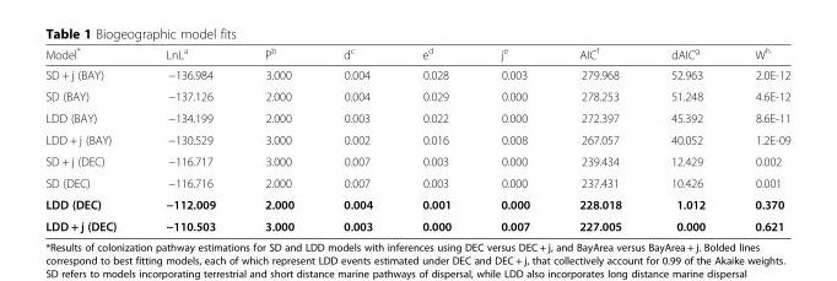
<table><thead><tr><td>Model*</td><td>LnL<sup>a</sup></td><td>P<sup>b</sup></td><td>d<sup>c</sup></td><td>e<sup>d</sup></td><td>j<sup>e</sup></td><td>AIC<sup>f</sup></td><td>dAIC<sup>g</sup></td><td>W<sup>h</sup></td></tr></thead><tbody><tr><td>SD + j (BAY)</td><td>−136.984</td><td>3.000</td><td>0.004</td><td>0.028</td><td>0.003</td><td>279.968</td><td>52.963</td><td>2.0E-12</td></tr><tr><td>SD (BAY)</td><td>−137.126</td><td>2.000</td><td>0.004</td><td>0.029</td><td>0.000</td><td>278.253</td><td>51.248</td><td>4.6E-12</td></tr><tr><td>LDD (BAY)</td><td>−134.199</td><td>2.000</td><td>0.003</td><td>0.022</td><td>0.000</td><td>272.397</td><td>45.392</td><td>8.6E-11</td></tr><tr><td>LDD + j (BAY)</td><td>−130.529</td><td>3.000</td><td>0.002</td><td>0.016</td><td>0.008</td><td>267.057</td><td>40.052</td><td>1.2E-09</td></tr><tr><td>SD + j (DEC)</td><td>−116.717</td><td>3.000</td><td>0.007</td><td>0.003</td><td>0.000</td><td>239.434</td><td>12.429</td><td>0.002</td></tr><tr><td>SD (DEC)</td><td>−116.716</td><td>2.000</td><td>0.007</td><td>0.003</td><td>0.000</td><td>237.431</td><td>10.426</td><td>0.001</td></tr><tr><td>LDD (DEC)</td><td>−112.009</td><td>2.000</td><td>0.004</td><td>0.001</td><td>0.000</td><td>228.018</td><td>1.012</td><td>0.370</td></tr><tr><td>LDD + j (DEC)</td><td>−110.503</td><td>3.000</td><td>0.003</td><td>0.000</td><td>0.007</td><td>227.005</td><td>0.000</td><td>0.621</td></tr></tbody></table>